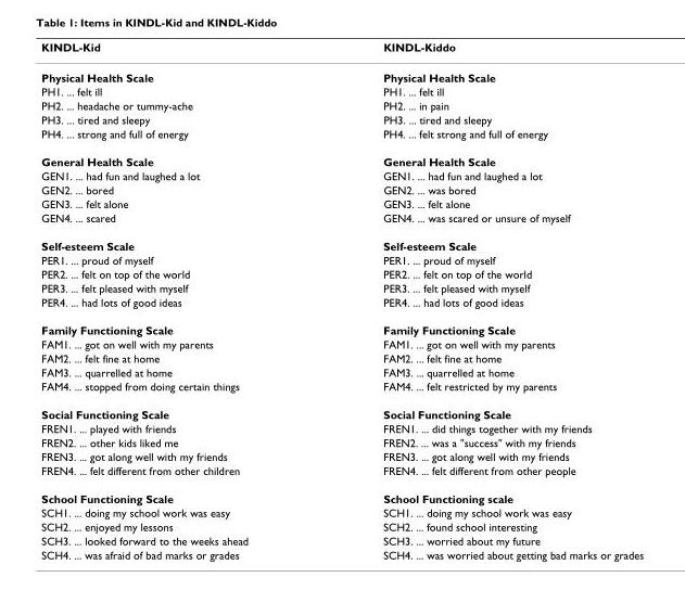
<table><thead><tr><td>KINDL-Kid</td><td>KINDL-Kiddo</td></tr></thead><tbody><tr><td>Physical Health Scale</td><td>Physical Health Scale</td></tr><tr><td>PH1. ... felt ill</td><td>PH1. ... felt ill</td></tr><tr><td>PH2. ... headache or tummy-ache</td><td>PH2. ... in pain</td></tr><tr><td>PH3. ... tired and sleepy</td><td>PH3. ... tired and sleepy</td></tr><tr><td>PH4. ... strong and full of energy</td><td>PH4. ... felt strong and full of energy</td></tr><tr><td>General Health Scale</td><td>General Health Scale</td></tr><tr><td>GEN1. ... had fun and laughed a lot</td><td>GEN1. ... had fun and laughed a lot</td></tr><tr><td>GEN2. ... bored</td><td>GEN2. ... was bored</td></tr><tr><td>GEN3. ... felt alone</td><td>GEN3. ... felt alone</td></tr><tr><td>GEN4. ... scared</td><td>GEN4. ... was scared or unsure of myself</td></tr><tr><td>Self-esteem Scale</td><td>Self-esteem Scale</td></tr><tr><td>PER1. ... proud of myself</td><td>PER1. ... proud of myself</td></tr><tr><td>PER2. ... felt on top of the world</td><td>PER2. ... felt on top of the world</td></tr><tr><td>PER3. ... felt pleased with myself</td><td>PER3. ... felt pleased with myself</td></tr><tr><td>PER4. ... had lots of good ideas</td><td>PER4. ... had lots of good ideas</td></tr><tr><td>Family Functioning Scale</td><td>Family Functioning Scale</td></tr><tr><td>FAM1. ... got on well with my parents</td><td>FAM1. ... got on well with my parents</td></tr><tr><td>FAM2. ... felt fine at home</td><td>FAM2. ... felt fine at home</td></tr><tr><td>FAM3. ... quarrelled at home</td><td>FAM3. ... quarrelled at home</td></tr><tr><td>FAM4. ... stopped from doing certain things</td><td>FAM4. ... felt restricted by my parents</td></tr><tr><td>Social Functioning Scale</td><td>Social Functioning Scale</td></tr><tr><td>FREN1. ... played with friends</td><td>FREN1. ... did things together with my friends</td></tr><tr><td>FREN2. ... other kids liked me</td><td>FREN2. ... was a &quot;success&quot; with my friends</td></tr><tr><td>FREN3. ... got along well with my friends</td><td>FREN3. ... got along well with my friends</td></tr><tr><td>FREN4. ... felt different from other children</td><td>FREN4. ... felt different from other people</td></tr><tr><td>School Functioning Scale</td><td>School Functioning scale</td></tr><tr><td>SCH1. ... doing my school work was easy</td><td>SCH1. ... doing my school work was easy</td></tr><tr><td>SCH2. ... enjoyed my lessons</td><td>SCH2. ... found school interesting</td></tr><tr><td>SCH3. ... looked forward to the weeks ahead</td><td>SCH3. ... worried about my future</td></tr><tr><td>SCH4. ... was afraid of bad marks or grades</td><td>SCH4. ... was worried about getting bad marks or grades</td></tr></tbody></table>